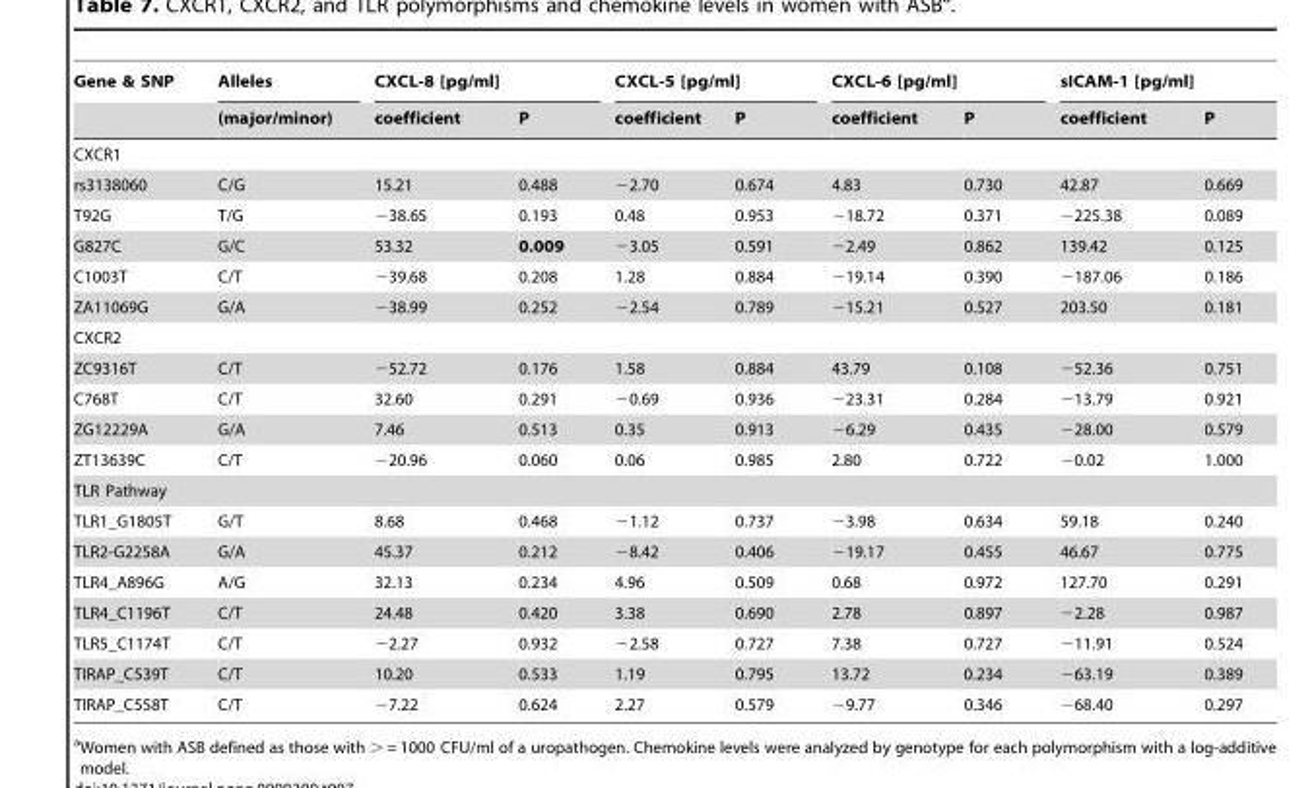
<table><thead><tr><td rowspan="2">Gene &amp; SNP</td><td rowspan="2">Alleles (major/minor)</td><td colspan="2">CXCL-8 [pg/ml]</td><td colspan="2">CXCL-5 [pg/ml]</td><td colspan="2">CXCL-6 [pg/ml]</td><td colspan="2">sICAM-1 [pg/ml]</td></tr><tr><td>coefficient</td><td>P</td><td>coefficient</td><td>P</td><td>coefficient</td><td>P</td><td>coefficient</td><td>P</td></tr></thead><tbody><tr><td colspan="10">CXCR1</td></tr><tr><td>rs3138060</td><td>C/G</td><td>15.21</td><td>0.488</td><td>−2.70</td><td>0.674</td><td>4.83</td><td>0.730</td><td>42.87</td><td>0.669</td></tr><tr><td>T92G</td><td>T/G</td><td>−38.65</td><td>0.193</td><td>0.48</td><td>0.953</td><td>−18.72</td><td>0.371</td><td>−225.38</td><td>0.089</td></tr><tr><td>G827C</td><td>G/C</td><td>53.32</td><td>0.009</td><td>−3.05</td><td>0.591</td><td>−2.49</td><td>0.862</td><td>139.42</td><td>0.125</td></tr><tr><td>C1003T</td><td>C/T</td><td>−39.68</td><td>0.208</td><td>1.28</td><td>0.884</td><td>−19.14</td><td>0.390</td><td>−187.06</td><td>0.186</td></tr><tr><td>ZA11069G</td><td>G/A</td><td>−38.99</td><td>0.252</td><td>−2.54</td><td>0.789</td><td>−15.21</td><td>0.527</td><td>203.50</td><td>0.181</td></tr><tr><td colspan="10">CXCR2</td></tr><tr><td>ZC9316T</td><td>C/T</td><td>−52.72</td><td>0.176</td><td>1.58</td><td>0.884</td><td>43.79</td><td>0.108</td><td>−52.36</td><td>0.751</td></tr><tr><td>C768T</td><td>C/T</td><td>32.60</td><td>0.291</td><td>−0.69</td><td>0.936</td><td>−23.31</td><td>0.284</td><td>−13.79</td><td>0.921</td></tr><tr><td>ZG12229A</td><td>G/A</td><td>7.46</td><td>0.513</td><td>0.35</td><td>0.913</td><td>−6.29</td><td>0.435</td><td>−28.00</td><td>0.579</td></tr><tr><td>ZT13639C</td><td>C/T</td><td>−20.96</td><td>0.060</td><td>0.06</td><td>0.985</td><td>2.80</td><td>0.722</td><td>−0.02</td><td>1.000</td></tr><tr><td colspan="10">TLR Pathway</td></tr><tr><td>TLR1_G1805T</td><td>G/T</td><td>8.68</td><td>0.468</td><td>−1.12</td><td>0.737</td><td>−3.98</td><td>0.634</td><td>59.18</td><td>0.240</td></tr><tr><td>TLR2-G2258A</td><td>G/A</td><td>45.37</td><td>0.212</td><td>−8.42</td><td>0.406</td><td>−19.17</td><td>0.455</td><td>46.67</td><td>0.775</td></tr><tr><td>TLR4_A896G</td><td>A/G</td><td>32.13</td><td>0.234</td><td>4.96</td><td>0.509</td><td>0.68</td><td>0.972</td><td>127.70</td><td>0.291</td></tr><tr><td>TLR4_C1196T</td><td>C/T</td><td>24.48</td><td>0.420</td><td>3.38</td><td>0.690</td><td>2.78</td><td>0.897</td><td>−2.28</td><td>0.987</td></tr><tr><td>TLR5_C1174T</td><td>C/T</td><td>−2.27</td><td>0.932</td><td>−2.58</td><td>0.727</td><td>7.38</td><td>0.727</td><td>−11.91</td><td>0.524</td></tr><tr><td>TIRAP_C539T</td><td>C/T</td><td>10.20</td><td>0.533</td><td>1.19</td><td>0.795</td><td>13.72</td><td>0.234</td><td>−63.19</td><td>0.389</td></tr><tr><td>TIRAP_C558T</td><td>C/T</td><td>−7.22</td><td>0.624</td><td>2.27</td><td>0.579</td><td>−9.77</td><td>0.346</td><td>−68.40</td><td>0.297</td></tr></tbody></table>